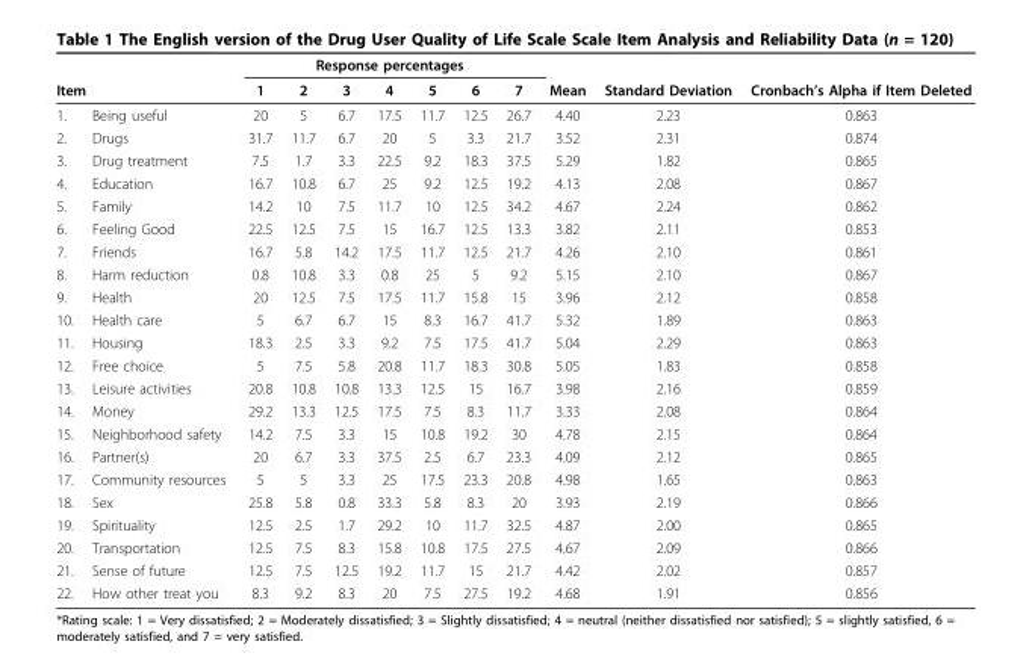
<table><thead><tr><td></td><td></td><td colspan="7">Response percentages</td><td rowspan="2">Mean</td><td rowspan="2">Standard Deviation</td><td rowspan="2">Cronbach’s Alpha if Item Deleted</td></tr><tr><td colspan="2">Item</td><td>1</td><td>2</td><td>3</td><td>4</td><td>5</td><td>6</td><td>7</td></tr></thead><tbody><tr><td>1.</td><td>Being useful</td><td>20</td><td>5</td><td>6.7</td><td>17.5</td><td>11.7</td><td>12.5</td><td>26.7</td><td>4.40</td><td>2.23</td><td>0.863</td></tr><tr><td>2.</td><td>Drugs</td><td>31.7</td><td>11.7</td><td>6.7</td><td>20</td><td>5</td><td>3.3</td><td>21.7</td><td>3.52</td><td>2.31</td><td>0.874</td></tr><tr><td>3.</td><td>Drug treatment</td><td>7.5</td><td>1.7</td><td>3.3</td><td>22.5</td><td>9.2</td><td>18.3</td><td>37.5</td><td>5.29</td><td>1.82</td><td>0.865</td></tr><tr><td>4.</td><td>Education</td><td>16.7</td><td>10.8</td><td>6.7</td><td>25</td><td>9.2</td><td>12.5</td><td>19.2</td><td>4.13</td><td>2.08</td><td>0.867</td></tr><tr><td>5.</td><td>Family</td><td>14.2</td><td>10</td><td>7.5</td><td>11.7</td><td>10</td><td>12.5</td><td>34.2</td><td>4.67</td><td>2.24</td><td>0.862</td></tr><tr><td>6.</td><td>Feeling Good</td><td>22.5</td><td>12.5</td><td>7.5</td><td>15</td><td>16.7</td><td>12.5</td><td>13.3</td><td>3.82</td><td>2.11</td><td>0.853</td></tr><tr><td>7.</td><td>Friends</td><td>16.7</td><td>5.8</td><td>14.2</td><td>17.5</td><td>11.7</td><td>12.5</td><td>21.7</td><td>4.26</td><td>2.10</td><td>0.861</td></tr><tr><td>8.</td><td>Harm reduction</td><td>0.8</td><td>10.8</td><td>3.3</td><td>0.8</td><td>25</td><td>5</td><td>9.2</td><td>5.15</td><td>2.10</td><td>0.867</td></tr><tr><td>9.</td><td>Health</td><td>20</td><td>12.5</td><td>7.5</td><td>17.5</td><td>11.7</td><td>15.8</td><td>15</td><td>3.96</td><td>2.12</td><td>0.858</td></tr><tr><td>10.</td><td>Health care</td><td>5</td><td>6.7</td><td>6.7</td><td>15</td><td>8.3</td><td>16.7</td><td>41.7</td><td>5.32</td><td>1.89</td><td>0.863</td></tr><tr><td>11.</td><td>Housing</td><td>18.3</td><td>2.5</td><td>3.3</td><td>9.2</td><td>7.5</td><td>17.5</td><td>41.7</td><td>5.04</td><td>2.29</td><td>0.863</td></tr><tr><td>12.</td><td>Free choice</td><td>5</td><td>7.5</td><td>5.8</td><td>20.8</td><td>11.7</td><td>18.3</td><td>30.8</td><td>5.05</td><td>1.83</td><td>0.858</td></tr><tr><td>13.</td><td>Leisure activities</td><td>20.8</td><td>10.8</td><td>10.8</td><td>13.3</td><td>12.5</td><td>15</td><td>16.7</td><td>3.98</td><td>2.16</td><td>0.859</td></tr><tr><td>14.</td><td>Money</td><td>29.2</td><td>13.3</td><td>12.5</td><td>17.5</td><td>7.5</td><td>8.3</td><td>11.7</td><td>3.33</td><td>2.08</td><td>0.864</td></tr><tr><td>15.</td><td>Neighborhood safety</td><td>14.2</td><td>7.5</td><td>3.3</td><td>15</td><td>10.8</td><td>19.2</td><td>30</td><td>4.78</td><td>2.15</td><td>0.864</td></tr><tr><td>16.</td><td>Partner(s)</td><td>20</td><td>6.7</td><td>3.3</td><td>37.5</td><td>2.5</td><td>6.7</td><td>23.3</td><td>4.09</td><td>2.12</td><td>0.865</td></tr><tr><td>17.</td><td>Community resources</td><td>5</td><td>5</td><td>3.3</td><td>25</td><td>17.5</td><td>23.3</td><td>20.8</td><td>4.98</td><td>1.65</td><td>0.863</td></tr><tr><td>18.</td><td>Sex</td><td>25.8</td><td>5.8</td><td>0.8</td><td>33.3</td><td>5.8</td><td>8.3</td><td>20</td><td>3.93</td><td>2.19</td><td>0.866</td></tr><tr><td>19.</td><td>Spirituality</td><td>12.5</td><td>2.5</td><td>1.7</td><td>29.2</td><td>10</td><td>11.7</td><td>32.5</td><td>4.87</td><td>2.00</td><td>0.865</td></tr><tr><td>20.</td><td>Transportation</td><td>12.5</td><td>7.5</td><td>8.3</td><td>15.8</td><td>10.8</td><td>17.5</td><td>27.5</td><td>4.67</td><td>2.09</td><td>0.866</td></tr><tr><td>21.</td><td>Sense of future</td><td>12.5</td><td>7.5</td><td>12.5</td><td>19.2</td><td>11.7</td><td>15</td><td>21.7</td><td>4.42</td><td>2.02</td><td>0.857</td></tr><tr><td>22.</td><td>How other treat you</td><td>8.3</td><td>9.2</td><td>8.3</td><td>20</td><td>7.5</td><td>27.5</td><td>19.2</td><td>4.68</td><td>1.91</td><td>0.856</td></tr></tbody></table>